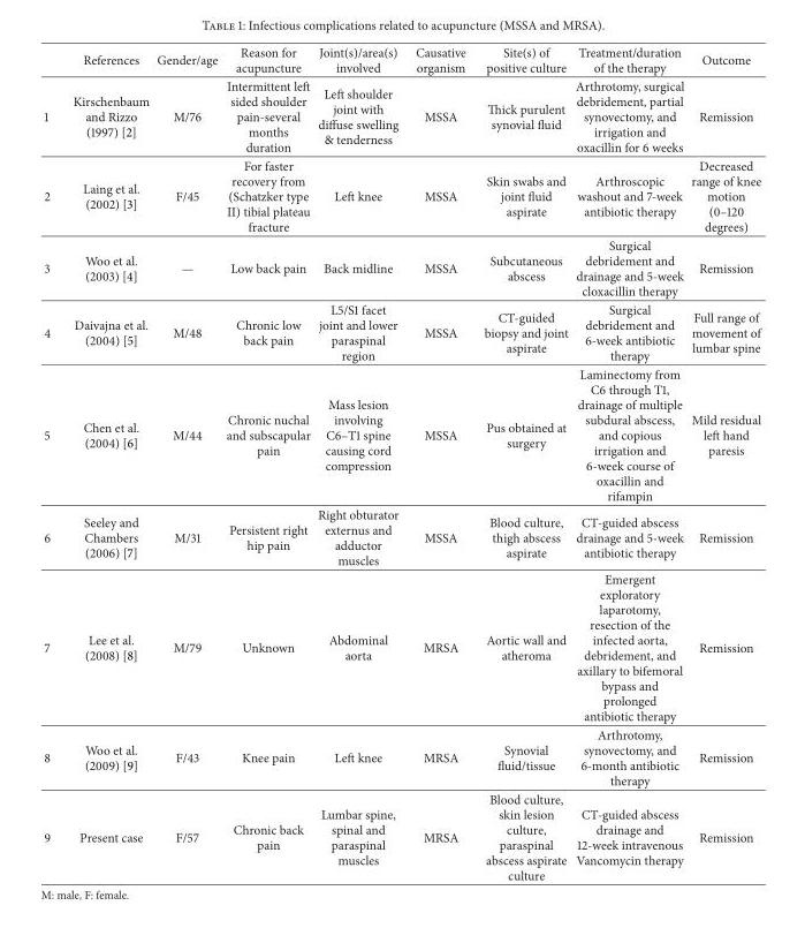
<table><thead><tr><td></td><td>References</td><td>Gender/age</td><td>Reason for acupuncture</td><td>Joint(s)/area(s) involved</td><td>Causative organism</td><td>Site(s) of positive culture</td><td>Treatment/duration of the therapy</td><td>Outcome</td></tr></thead><tbody><tr><td>1</td><td>Kirschenbaum and Rizzo (1997) [2]</td><td>M/76</td><td>Intermittent left sided shoulder pain-several months duration</td><td>Left shoulder joint with diffuse swelling &amp; tenderness</td><td>MSSA</td><td>Thick purulent synovial fluid</td><td>Arthrotomy, surgical debridement, partial synovectomy, and irrigation and oxacillin for 6 weeks</td><td>Remission</td></tr><tr><td>2</td><td>Laing et al. (2002) [3]</td><td>F/45</td><td>For faster recovery from (Schatzker type II) tibial plateau fracture</td><td>Left knee</td><td>MSSA</td><td>Skin swabs and joint fluid aspirate</td><td>Arthroscopic washout and 7-week antibiotic therapy</td><td>Decreased range of knee motion (0–120 degrees)</td></tr><tr><td>3</td><td>Woo et al. (2003) [4]</td><td>—</td><td>Low back pain</td><td>Back midline</td><td>MSSA</td><td>Subcutaneous abscess</td><td>Surgical debridement and drainage and 5-week cloxacillin therapy</td><td>Remission</td></tr><tr><td>4</td><td>Daivajna et al. (2004) [5]</td><td>M/48</td><td>Chronic low back pain</td><td>L5/S1 facet joint and lower paraspinal region</td><td>MSSA</td><td>CT-guided biopsy and joint aspirate</td><td>Surgical debridement and 6-week antibiotic therapy</td><td>Full range of movement of lumbar spine</td></tr><tr><td>5</td><td>Chen et al. (2004) [6]</td><td>M/44</td><td>Chronic nuchal and subscapular pain</td><td>Mass lesion involving C6–T1 spine causing cord compression</td><td>MSSA</td><td>Pus obtained at surgery</td><td>Laminectomy from C6 through T1, drainage of multiple subdural abscess, and copious irrigation and 6-week course of oxacillin and rifampin</td><td>Mild residual left hand paresis</td></tr><tr><td>6</td><td>Seeley and Chambers (2006) [7]</td><td>M/31</td><td>Persistent right hip pain</td><td>Right obturator externus and adductor muscles</td><td>MSSA</td><td>Blood culture, thigh abscess aspirate</td><td>CT-guided abscess drainage and 5-week antibiotic therapy</td><td>Remission</td></tr><tr><td>7</td><td>Lee et al. (2008) [8]</td><td>M/79</td><td>Unknown</td><td>Abdominal aorta</td><td>MRSA</td><td>Aortic wall and atheroma</td><td>Emergent exploratory laparotomy, resection of the infected aorta, debridement, and axillary to bifemoral bypass and prolonged antibiotic therapy</td><td>Remission</td></tr><tr><td>8</td><td>Woo et al. (2009) [9]</td><td>F/43</td><td>Knee pain</td><td>Left knee</td><td>MRSA</td><td>Synovial fluid/tissue</td><td>Arthrotomy, synovectomy, and 6-month antibiotic therapy</td><td>Remission</td></tr><tr><td>9</td><td>Present case</td><td>F/57</td><td>Chronic back pain</td><td>Lumbar spine, spinal and paraspinal muscles</td><td>MRSA</td><td>Blood culture, skin lesion culture, paraspinal abscess aspirate culture</td><td>CT-guided abscess drainage and 12-week intravenous Vancomycin therapy</td><td>Remission</td></tr></tbody></table>